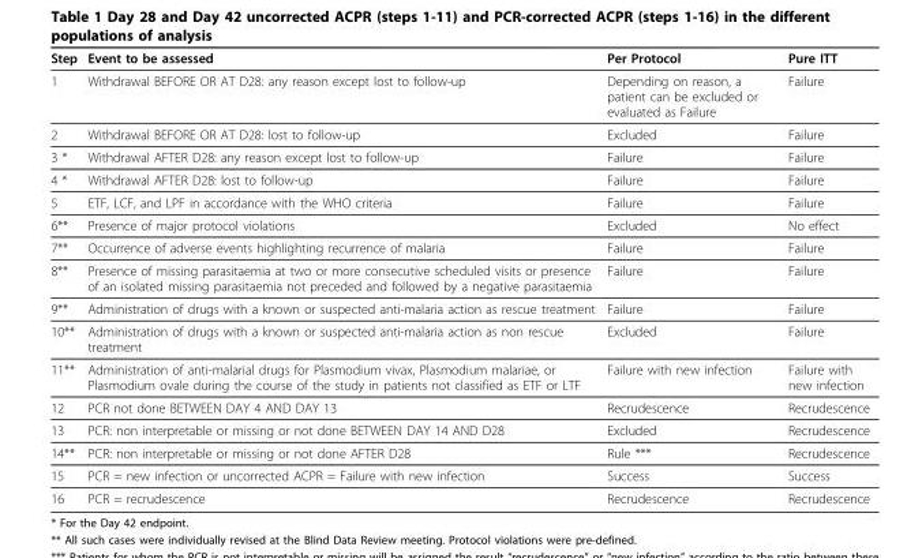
<table><thead><tr><td>Step</td><td>Event to be assessed</td><td>Per Protocol</td><td>Pure ITT</td></tr></thead><tbody><tr><td>1</td><td>Withdrawal BEFORE OR AT D28: any reason except lost to follow-up</td><td>Depending on reason, a patient can be excluded or evaluated as Failure</td><td>Failure</td></tr><tr><td>2</td><td>Withdrawal BEFORE OR AT D28: lost to follow-up</td><td>Excluded</td><td>Failure</td></tr><tr><td>3 *</td><td>Withdrawal AFTER D28: any reason except lost to follow-up</td><td>Failure</td><td>Failure</td></tr><tr><td>4 *</td><td>Withdrawal AFTER D28: lost to follow-up</td><td>Failure</td><td>Failure</td></tr><tr><td>5</td><td>ETF, LCF, and LPF in accordance with the WHO criteria</td><td>Failure</td><td>Failure</td></tr><tr><td>6**</td><td>Presence of major protocol violations</td><td>Excluded</td><td>No effect</td></tr><tr><td>7**</td><td>Occurrence of adverse events highlighting recurrence of malaria</td><td>Failure</td><td>Failure</td></tr><tr><td>8**</td><td>Presence of missing parasitaemia at two or more consecutive scheduled visits or presence of an isolated missing parasitaemia not preceded and followed by a negative parasitaemia</td><td>Failure</td><td>Failure</td></tr><tr><td>9**</td><td>Administration of drugs with a known or suspected anti-malaria action as rescue treatment</td><td>Failure</td><td>Failure</td></tr><tr><td>10**</td><td>Administration of drugs with a known or suspected anti-malaria action as non rescue treatment</td><td>Excluded</td><td>Failure</td></tr><tr><td>11**</td><td>Administration of anti-malarial drugs for Plasmodium vivax, Plasmodium malariae, or Plasmodium ovale during the course of the study in patients not classified as ETF or LTF</td><td>Failure with new infection</td><td>Failure with new infection</td></tr><tr><td>12</td><td>PCR not done BETWEEN DAY 4 AND DAY 13</td><td>Recrudescence</td><td>Recrudescence</td></tr><tr><td>13</td><td>PCR: non interpretable or missing or not done BETWEEN DAY 14 AND D28</td><td>Excluded</td><td>Recrudescence</td></tr><tr><td>14**</td><td>PCR: non interpretable or missing or not done AFTER D28</td><td>Rule ***</td><td>Recrudescence</td></tr><tr><td>15</td><td>PCR = new infection or uncorrected ACPR = Failure with new infection</td><td>Success</td><td>Success</td></tr><tr><td>16</td><td>PCR = recrudescence</td><td>Recrudescence</td><td>Recrudescence</td></tr></tbody></table>